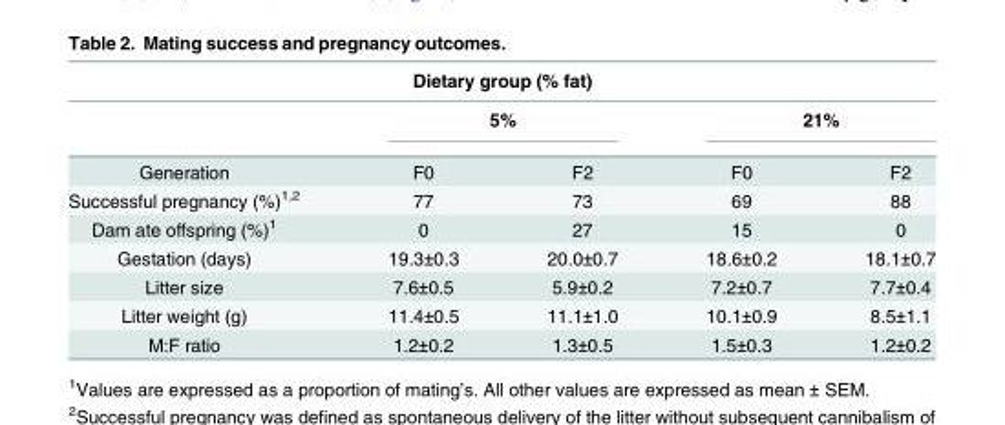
<table><thead><tr><td colspan="5">Dietary group (% fat)</td></tr><tr><td rowspan="2">Generation</td><td colspan="2">5%</td><td colspan="2">21%</td></tr><tr><td>F0</td><td>F2</td><td>F0</td><td>F2</td></tr></thead><tbody><tr><td>Successful pregnancy (%)<sup>1,2</sup></td><td>77</td><td>73</td><td>69</td><td>88</td></tr><tr><td>Dam ate offspring (%)<sup>1</sup></td><td>0</td><td>27</td><td>15</td><td>0</td></tr><tr><td>Gestation (days)</td><td>19.3±0.3</td><td>20.0±0.7</td><td>18.6±0.2</td><td>18.1±0.7</td></tr><tr><td>Litter size</td><td>7.6±0.5</td><td>5.9±0.2</td><td>7.2±0.7</td><td>7.7±0.4</td></tr><tr><td>Litter weight (g)</td><td>11.4±0.5</td><td>11.1±1.0</td><td>10.1±0.9</td><td>8.5±1.1</td></tr><tr><td>M:F ratio</td><td>1.2±0.2</td><td>1.3±0.5</td><td>1.5±0.3</td><td>1.2±0.2</td></tr></tbody></table>